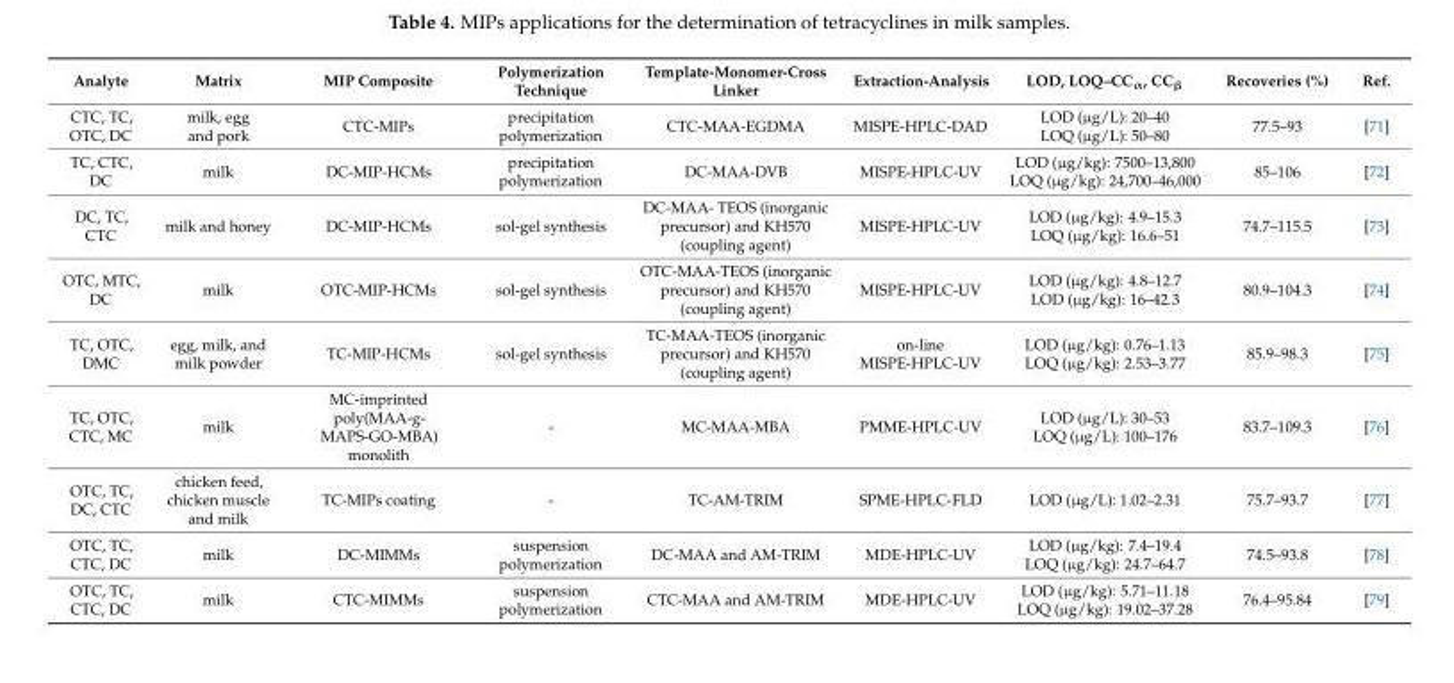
<table><thead><tr><td>Analyte</td><td>Matrix</td><td>MIP Composite</td><td>Polymerization Technique</td><td>Template-Monomer-Cross Linker</td><td>Extraction-Analysis</td><td>LOD, LOQ–CC<sub>α</sub>, CC<sub>β</sub></td><td>Recoveries (%)</td><td>Ref.</td></tr></thead><tbody><tr><td>CTC, TC, OTC, DC</td><td>milk, egg and pork</td><td>CTC-MIPs</td><td>precipitation polymerization</td><td>CTC-MAA-EGDMA</td><td>MISPE-HPLC-DAD</td><td>LOD (µg/L): 20–40 LOQ (µg/L): 50–80</td><td>77.5–93</td><td>[71]</td></tr><tr><td>TC, CTC, DC</td><td>milk</td><td>DC-MIP-HCMs</td><td>precipitation polymerization</td><td>DC-MAA-DVB</td><td>MISPE-HPLC-UV</td><td>LOD (µg/kg): 7500–13,800 LOQ (µg/kg): 24,700–46,000</td><td>85–106</td><td>[72]</td></tr><tr><td>DC, TC, CTC</td><td>milk and honey</td><td>DC-MIP-HCMs</td><td>sol-gel synthesis</td><td>DC-MAA- TEOS (inorganic precursor) and KH570 (coupling agent)</td><td>MISPE-HPLC-UV</td><td>LOD (µg/kg): 4.9–15.3 LOQ (µg/kg): 16.6–51</td><td>74.7–115.5</td><td>[73]</td></tr><tr><td>OTC, MTC, DC</td><td>milk</td><td>OTC-MIP-HCMs</td><td>sol-gel synthesis</td><td>OTC-MAA-TEOS (inorganic precursor) and KH570 (coupling agent)</td><td>MISPE-HPLC-UV</td><td>LOD (µg/kg): 4.8–12.7 LOD (µg/kg): 16–42.3</td><td>80.9–104.3</td><td>[74]</td></tr><tr><td>TC, OTC, DMC</td><td>egg, milk, and milk powder</td><td>TC-MIP-HCMs</td><td>sol-gel synthesis</td><td>TC-MAA-TEOS (inorganic precursor) and KH570 (coupling agent)</td><td>on-line MISPE-HPLC-UV</td><td>LOD (µg/kg): 0.76–1.13 LOQ (µg/kg): 2.53–3.77</td><td>85.9–98.3</td><td>[75]</td></tr><tr><td>TC, OTC, CTC, MC</td><td>milk</td><td>MC-imprinted poly(MAA-g- MAPS-GO-MBA) monolith</td><td>-</td><td>MC-MAA-MBA</td><td>PMME-HPLC-UV</td><td>LOD (µg/L): 30–53 LOQ (µg/L): 100–176</td><td>83.7–109.3</td><td>[76]</td></tr><tr><td>OTC, TC, DC, CTC</td><td>chicken feed, chicken muscle and milk</td><td>TC-MIPs coating</td><td>-</td><td>TC-AM-TRIM</td><td>SPME-HPLC-FLD</td><td>LOD (µg/L): 1.02–2.31</td><td>75.7–93.7</td><td>[77]</td></tr><tr><td>OTC, TC, CTC, DC</td><td>milk</td><td>DC-MIMMs</td><td>suspension polymerization</td><td>DC-MAA and AM-TRIM</td><td>MDE-HPLC-UV</td><td>LOD (µg/kg): 7.4–19.4 LOQ (µg/kg): 24.7–64.7</td><td>74.5–93.8</td><td>[78]</td></tr><tr><td>OTC, TC, CTC, DC</td><td>milk</td><td>CTC-MIMMs</td><td>suspension polymerization</td><td>CTC-MAA and AM-TRIM</td><td>MDE-HPLC-UV</td><td>LOD (µg/kg): 5.71–11.18 LOQ (µg/kg): 19.02–37.28</td><td>76.4–95.84</td><td>[79]</td></tr></tbody></table>